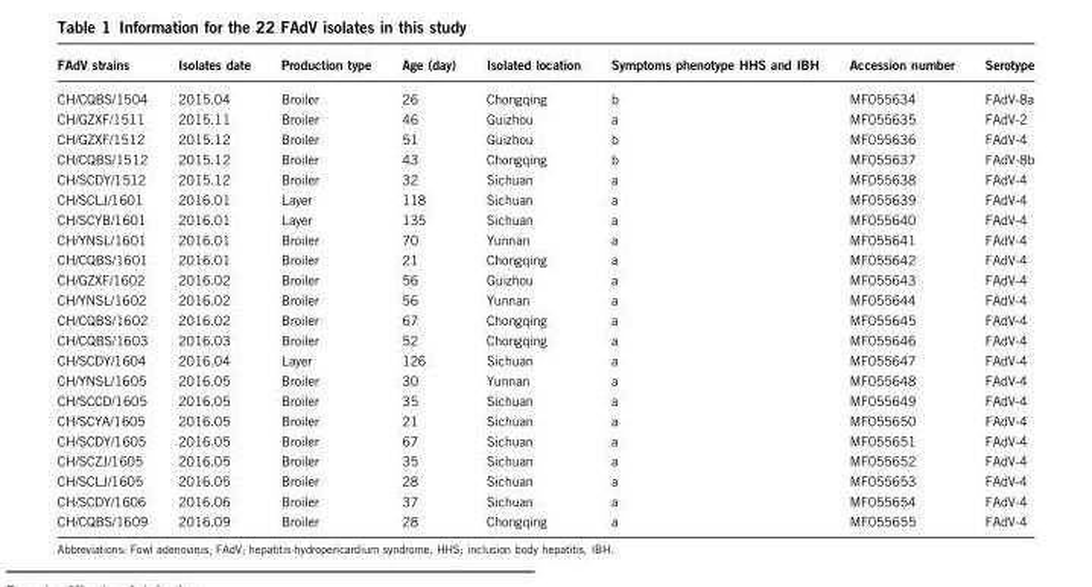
<table><thead><tr><td>FAdV strains</td><td>Isolates date</td><td>Production type</td><td>Age (day)</td><td>Isolated location</td><td>Symptoms phenotype HHS and IBH</td><td>Accession number</td><td>Serotype</td></tr></thead><tbody><tr><td>CH/CQBS/1504</td><td>2015.04</td><td>Broiler</td><td>26</td><td>Chongqing</td><td>b</td><td>MF055634</td><td>FAdV-8a</td></tr><tr><td>CH/GZXF/1511</td><td>2015.11</td><td>Broiler</td><td>46</td><td>Guizhou</td><td>a</td><td>MF055635</td><td>FAdV-2</td></tr><tr><td>CH/GZXF/1512</td><td>2015.12</td><td>Broiler</td><td>51</td><td>Guizhou</td><td>b</td><td>MF055636</td><td>FAdV-4</td></tr><tr><td>CH/CQBS/1512</td><td>2015.12</td><td>Broiler</td><td>43</td><td>Chongqing</td><td>b</td><td>MF055637</td><td>FAdV-8b</td></tr><tr><td>CH/SCDY/1512</td><td>2015.12</td><td>Broiler</td><td>32</td><td>Sichuan</td><td>a</td><td>MF055638</td><td>FAdV-4</td></tr><tr><td>CH/SCLJ/1601</td><td>2016.01</td><td>Layer</td><td>118</td><td>Sichuan</td><td>a</td><td>MF055639</td><td>FAdV-4</td></tr><tr><td>CH/SCYB/1601</td><td>2016.01</td><td>Layer</td><td>135</td><td>Sichuan</td><td>a</td><td>MF055640</td><td>FAdV-4</td></tr><tr><td>CH/YNSL/1601</td><td>2016.01</td><td>Broiler</td><td>70</td><td>Yunnan</td><td>a</td><td>MF055641</td><td>FAdV-4</td></tr><tr><td>CH/CQBS/1601</td><td>2016.01</td><td>Broiler</td><td>21</td><td>Chongqing</td><td>a</td><td>MF055642</td><td>FAdV-4</td></tr><tr><td>CH/GZXF/1602</td><td>2016.02</td><td>Broiler</td><td>56</td><td>Guizhou</td><td>a</td><td>MF055643</td><td>FAdV-4</td></tr><tr><td>CH/YNSL/1602</td><td>2016.02</td><td>Broiler</td><td>56</td><td>Yunnan</td><td>a</td><td>MF055644</td><td>FAdV-4</td></tr><tr><td>CH/CQBS/1602</td><td>2016.02</td><td>Broiler</td><td>67</td><td>Chongqing</td><td>a</td><td>MF055645</td><td>FAdV-4</td></tr><tr><td>CH/CQBS/1603</td><td>2016.03</td><td>Broiler</td><td>52</td><td>Chongqing</td><td>a</td><td>MF055646</td><td>FAdV-4</td></tr><tr><td>CH/SCDY/1604</td><td>2016.04</td><td>Layer</td><td>126</td><td>Sichuan</td><td>a</td><td>MF055647</td><td>FAdV-4</td></tr><tr><td>CH/YNSL/1605</td><td>2016.05</td><td>Broiler</td><td>30</td><td>Yunnan</td><td>a</td><td>MF055648</td><td>FAdV-4</td></tr><tr><td>CH/SCCD/1605</td><td>2016.05</td><td>Broiler</td><td>35</td><td>Sichuan</td><td>a</td><td>MF055649</td><td>FAdV-4</td></tr><tr><td>CH/SCYA/1605</td><td>2016.05</td><td>Broiler</td><td>21</td><td>Sichuan</td><td>a</td><td>MF055650</td><td>FAdV-4</td></tr><tr><td>CH/SCDY/1605</td><td>2016.05</td><td>Broiler</td><td>67</td><td>Sichuan</td><td>a</td><td>MF055651</td><td>FAdV-4</td></tr><tr><td>CH/SCZJ/1605</td><td>2016.05</td><td>Broiler</td><td>35</td><td>Sichuan</td><td>a</td><td>MF055652</td><td>FAdV-4</td></tr><tr><td>CH/SCLJ/1605</td><td>2016.05</td><td>Broiler</td><td>28</td><td>Sichuan</td><td>a</td><td>MF055653</td><td>FAdV-4</td></tr><tr><td>CH/SCDY/1606</td><td>2016.06</td><td>Broiler</td><td>37</td><td>Sichuan</td><td>a</td><td>MF055654</td><td>FAdV-4</td></tr><tr><td>CH/CQBS/1609</td><td>2016.09</td><td>Broiler</td><td>28</td><td>Chongqing</td><td>a</td><td>MF055655</td><td>FAdV-4</td></tr></tbody></table>